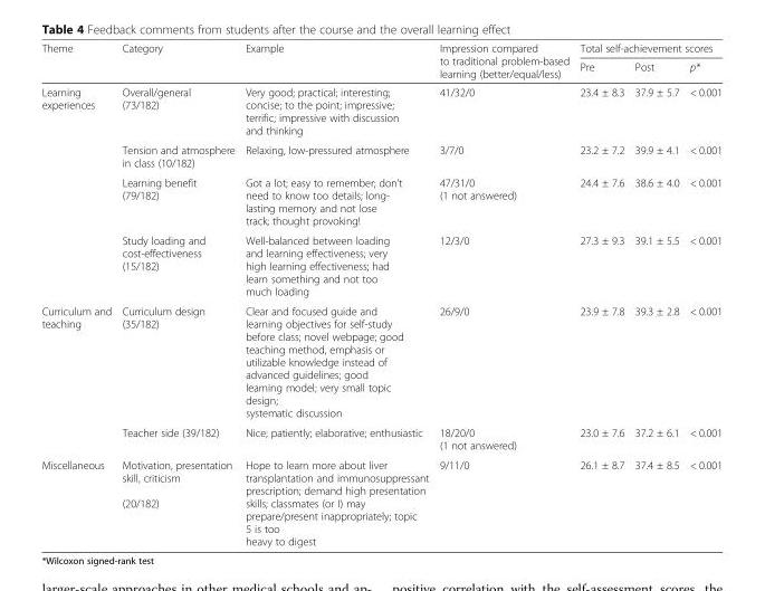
<table><thead><tr><td rowspan="2">Theme</td><td rowspan="2">Category</td><td rowspan="2">Example</td><td rowspan="2">Impression compared to traditional problem-based learning (better/equal/less)</td><td colspan="3">Total self-achievement scores</td></tr><tr><td>Pre</td><td>Post</td><td>p*</td></tr></thead><tbody><tr><td rowspan="4">Learning experiences</td><td>Overall/general (73/182)</td><td>Very good; practical; interesting; concise; to the point; impressive; terrific; impressive with discussion and thinking</td><td>41/32/0</td><td>23.4 ± 8.3</td><td>37.9 ± 5.7</td><td>&lt; 0.001</td></tr><tr><td>Tension and atmosphere in class (10/182)</td><td>Relaxing, low-pressured atmosphere</td><td>3/7/0</td><td>23.2 ± 7.2</td><td>39.9 ± 4.1</td><td>&lt; 0.001</td></tr><tr><td>Learning benefit (79/182)</td><td>Got a lot; easy to remember; don’t need to know too details; long- lasting memory and not lose track; thought provoking!</td><td>47/31/0 (1 not answered)</td><td>24.4 ± 7.6</td><td>38.6 ± 4.0</td><td>&lt; 0.001</td></tr><tr><td>Study loading and cost-effectiveness (15/182)</td><td>Well-balanced between loading and learning effectiveness; very high learning effectiveness; had learn something and not too much loading</td><td>12/3/0</td><td>27.3 ± 9.3</td><td>39.1 ± 5.5</td><td>&lt; 0.001</td></tr><tr><td rowspan="2">Curriculum and teaching</td><td>Curriculum design (35/182)</td><td>Clear and focused guide and learning objectives for self-study before class; novel webpage; good teaching method, emphasis or utilizable knowledge instead of advanced guidelines; good learning model; very small topic design; systematic discussion</td><td>26/9/0</td><td>23.9 ± 7.8</td><td>39.3 ± 2.8</td><td>&lt; 0.001</td></tr><tr><td>Teacher side (39/182)</td><td>Nice; patiently; elaborative; enthusiastic</td><td>18/20/0 (1 not answered)</td><td>23.0 ± 7.6</td><td>37.2 ± 6.1</td><td>&lt; 0.001</td></tr><tr><td>Miscellaneous</td><td>Motivation, presentation skill, criticism (20/182)</td><td>Hope to learn more about liver transplantation and immunosuppressant prescription; demand high presentation skills; classmates (or I) may prepare/present inappropriately; topic 5 is too heavy to digest</td><td>9/11/0</td><td>26.1 ± 8.7</td><td>37.4 ± 8.5</td><td>&lt; 0.001</td></tr></tbody></table>